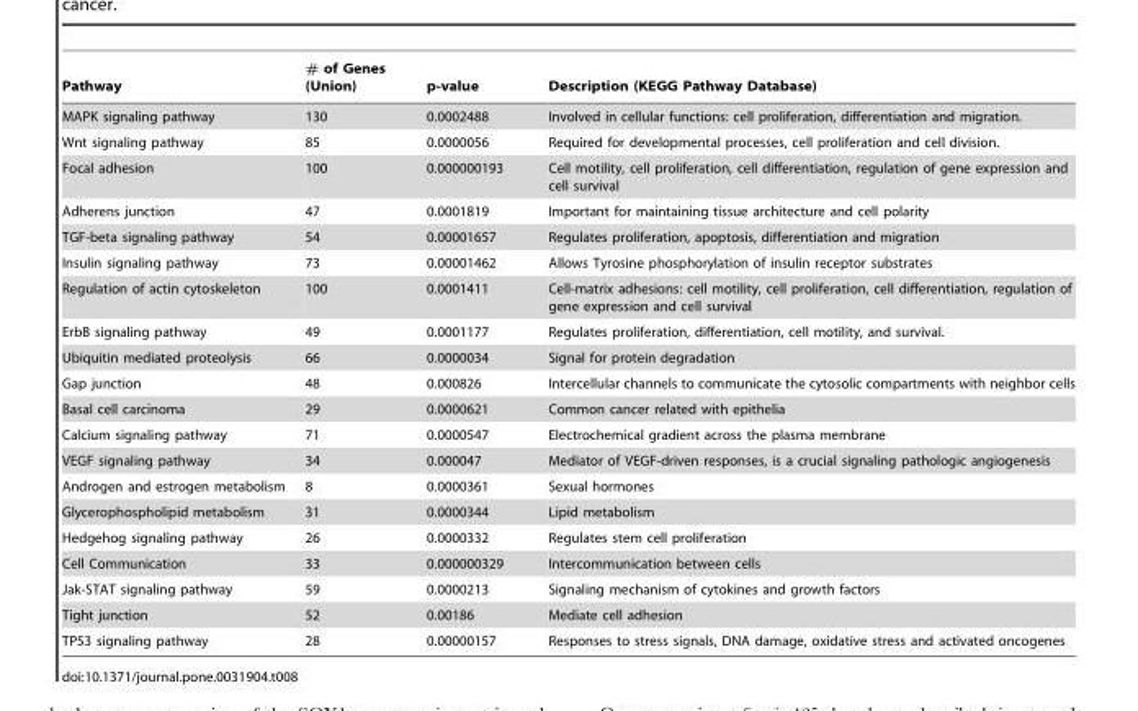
<table><thead><tr><td>Pathway</td><td># of Genes (Union)</td><td>p-value</td><td>Description (KEGG Pathway Database)</td></tr></thead><tbody><tr><td>MAPK signaling pathway</td><td>130</td><td>0.0002488</td><td>Involved in cellular functions: cell proliferation, differentiation and migration.</td></tr><tr><td>Wnt signaling pathway</td><td>85</td><td>0.0000056</td><td>Required for developmental processes, cell proliferation and cell division.</td></tr><tr><td>Focal adhesion</td><td>100</td><td>0.000000193</td><td>Cell motility, cell proliferation, cell differentiation, regulation of gene expression and cell survival</td></tr><tr><td>Adherens junction</td><td>47</td><td>0.0001819</td><td>Important for maintaining tissue architecture and cell polarity</td></tr><tr><td>TGF-beta signaling pathway</td><td>54</td><td>0.00001657</td><td>Regulates proliferation, apoptosis, differentiation and migration</td></tr><tr><td>Insulin signaling pathway</td><td>73</td><td>0.00001462</td><td>Allows Tyrosine phosphorylation of insulin receptor substrates</td></tr><tr><td>Regulation of actin cytoskeleton</td><td>100</td><td>0.0001411</td><td>Cell-matrix adhesions: cell motility, cell proliferation, cell differentiation, regulation of gene expression and cell survival</td></tr><tr><td>ErbB signaling pathway</td><td>49</td><td>0.0001177</td><td>Regulates proliferation, differentiation, cell motility, and survival.</td></tr><tr><td>Ubiquitin mediated proteolysis</td><td>66</td><td>0.0000034</td><td>Signal for protein degradation</td></tr><tr><td>Gap junction</td><td>48</td><td>0.000826</td><td>Intercellular channels to communicate the cytosolic compartments with neighbor cells</td></tr><tr><td>Basal cell carcinoma</td><td>29</td><td>0.0000621</td><td>Common cancer related with epithelia</td></tr><tr><td>Calcium signaling pathway</td><td>71</td><td>0.0000547</td><td>Electrochemical gradient across the plasma membrane</td></tr><tr><td>VEGF signaling pathway</td><td>34</td><td>0.000047</td><td>Mediator of VEGF-driven responses, is a crucial signaling pathologic angiogenesis</td></tr><tr><td>Androgen and estrogen metabolism</td><td>8</td><td>0.0000361</td><td>Sexual hormones</td></tr><tr><td>Glycerophospholipid metabolism</td><td>31</td><td>0.0000344</td><td>Lipid metabolism</td></tr><tr><td>Hedgehog signaling pathway</td><td>26</td><td>0.0000332</td><td>Regulates stem cell proliferation</td></tr><tr><td>Cell Communication</td><td>33</td><td>0.000000329</td><td>Intercommunication between cells</td></tr><tr><td>Jak-STAT signaling pathway</td><td>59</td><td>0.0000213</td><td>Signaling mechanism of cytokines and growth factors</td></tr><tr><td>Tight junction</td><td>52</td><td>0.00186</td><td>Mediate cell adhesion</td></tr><tr><td>TP53 signaling pathway</td><td>28</td><td>0.00000157</td><td>Responses to stress signals, DNA damage, oxidative stress and activated oncogenes</td></tr></tbody></table>